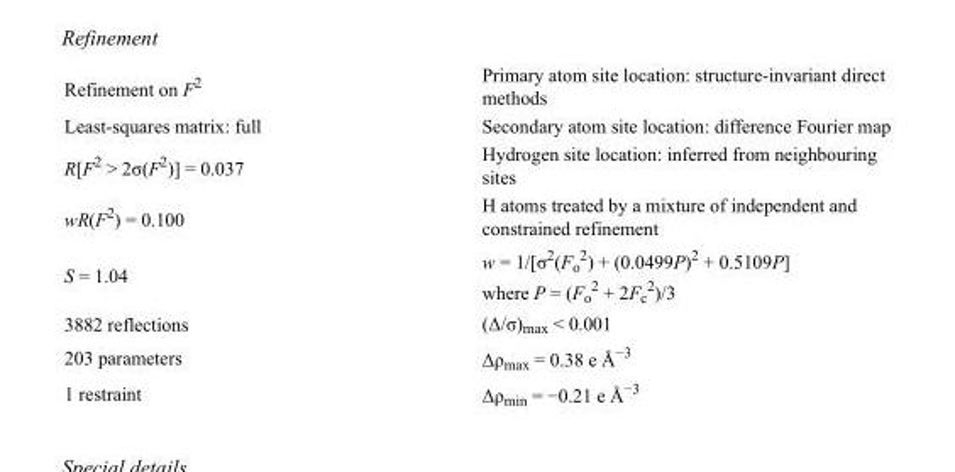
<table><tbody><tr><td>Refinement on F<sup>2</sup></td><td>Primary atom site location: structure-invariant direct methods</td></tr><tr><td>Least-squares matrix: full</td><td>Secondary atom site location: difference Fourier map</td></tr><tr><td>R[F<sup>2</sup> &gt; 2σ(F<sup>2</sup>)] = 0.037</td><td>Hydrogen site location: inferred from neighbouring sites</td></tr><tr><td>wR(F<sup>2</sup>) = 0.100</td><td>H atoms treated by a mixture of independent and constrained refinement</td></tr><tr><td>S = 1.04</td><td>w = 1/[σ<sup>2</sup>(F<sub>o</sub> <sup>2</sup>) + (0.0499P)<sup>2</sup> + 0.5109P] where P = (F<sub>o</sub> <sup>2</sup> + 2F<sub>c</sub> <sup>2</sup>)/3</td></tr><tr><td>3882 reflections</td><td>(Δ/σ)<sub>max</sub> &lt; 0.001</td></tr><tr><td>203 parameters</td><td>Δρ<sub>max</sub> = 0.38 e Å<sup>−3</sup></td></tr><tr><td>1 restraint</td><td>Δρ<sub>min</sub> = −0.21 e Å<sup>−3</sup></td></tr></tbody></table>